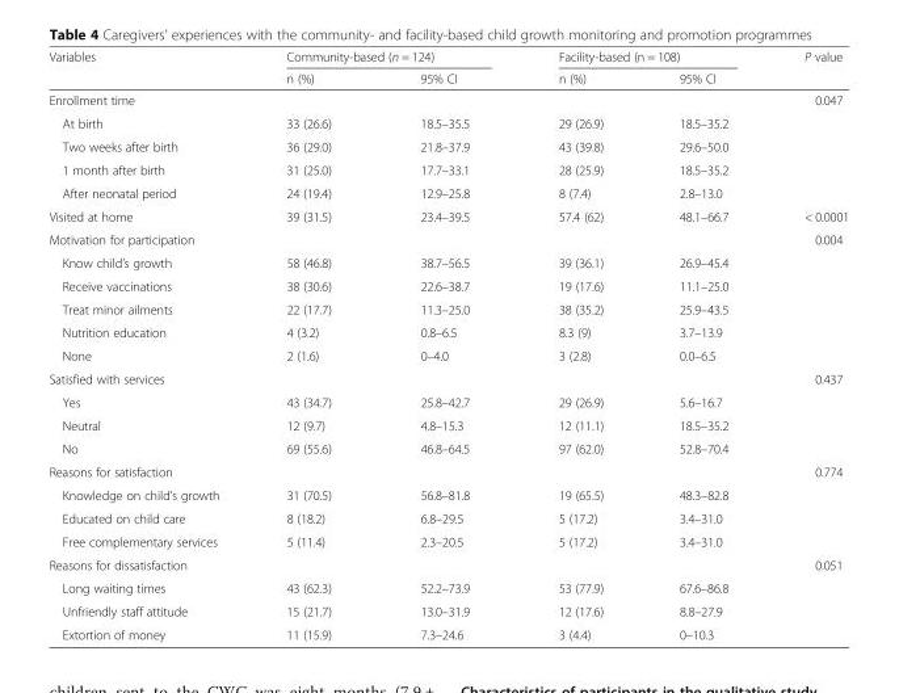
<table><thead><tr><td rowspan="2">Variables</td><td colspan="2">Community-based (n = 124)</td><td colspan="2">Facility-based (n = 108)</td><td rowspan="2">P value</td></tr><tr><td>n (%)</td><td>95% CI</td><td>n (%)</td><td>95% CI</td></tr></thead><tbody><tr><td>Enrollment time</td><td></td><td></td><td></td><td></td><td>0.047</td></tr><tr><td>At birth</td><td>33 (26.6)</td><td>18.5–35.5</td><td>29 (26.9)</td><td>18.5–35.2</td><td></td></tr><tr><td>Two weeks after birth</td><td>36 (29.0)</td><td>21.8–37.9</td><td>43 (39.8)</td><td>29.6–50.0</td><td></td></tr><tr><td>1 month after birth</td><td>31 (25.0)</td><td>17.7–33.1</td><td>28 (25.9)</td><td>18.5–35.2</td><td></td></tr><tr><td>After neonatal period</td><td>24 (19.4)</td><td>12.9–25.8</td><td>8 (7.4)</td><td>2.8–13.0</td><td></td></tr><tr><td>Visited at home</td><td>39 (31.5)</td><td>23.4–39.5</td><td>57.4 (62)</td><td>48.1–66.7</td><td>&lt; 0.0001</td></tr><tr><td>Motivation for participation</td><td></td><td></td><td></td><td></td><td>0.004</td></tr><tr><td>Know child’s growth</td><td>58 (46.8)</td><td>38.7–56.5</td><td>39 (36.1)</td><td>26.9–45.4</td><td></td></tr><tr><td>Receive vaccinations</td><td>38 (30.6)</td><td>22.6–38.7</td><td>19 (17.6)</td><td>11.1–25.0</td><td></td></tr><tr><td>Treat minor ailments</td><td>22 (17.7)</td><td>11.3–25.0</td><td>38 (35.2)</td><td>25.9–43.5</td><td></td></tr><tr><td>Nutrition education</td><td>4 (3.2)</td><td>0.8–6.5</td><td>8.3 (9)</td><td>3.7–13.9</td><td></td></tr><tr><td>None</td><td>2 (1.6)</td><td>0–4.0</td><td>3 (2.8)</td><td>0.0–6.5</td><td></td></tr><tr><td>Satisfied with services</td><td></td><td></td><td></td><td></td><td>0.437</td></tr><tr><td>Yes</td><td>43 (34.7)</td><td>25.8–42.7</td><td>29 (26.9)</td><td>5.6–16.7</td><td></td></tr><tr><td>Neutral</td><td>12 (9.7)</td><td>4.8–15.3</td><td>12 (11.1)</td><td>18.5–35.2</td><td></td></tr><tr><td>No</td><td>69 (55.6)</td><td>46.8–64.5</td><td>97 (62.0)</td><td>52.8–70.4</td><td></td></tr><tr><td>Reasons for satisfaction</td><td></td><td></td><td></td><td></td><td>0.774</td></tr><tr><td>Knowledge on child’s growth</td><td>31 (70.5)</td><td>56.8–81.8</td><td>19 (65.5)</td><td>48.3–82.8</td><td></td></tr><tr><td>Educated on child care</td><td>8 (18.2)</td><td>6.8–29.5</td><td>5 (17.2)</td><td>3.4–31.0</td><td></td></tr><tr><td>Free complementary services</td><td>5 (11.4)</td><td>2.3–20.5</td><td>5 (17.2)</td><td>3.4–31.0</td><td></td></tr><tr><td>Reasons for dissatisfaction</td><td></td><td></td><td></td><td></td><td>0.051</td></tr><tr><td>Long waiting times</td><td>43 (62.3)</td><td>52.2–73.9</td><td>53 (77.9)</td><td>67.6–86.8</td><td></td></tr><tr><td>Unfriendly staff attitude</td><td>15 (21.7)</td><td>13.0–31.9</td><td>12 (17.6)</td><td>8.8–27.9</td><td></td></tr><tr><td>Extortion of money</td><td>11 (15.9)</td><td>7.3–24.6</td><td>3 (4.4)</td><td>0–10.3</td><td></td></tr></tbody></table>